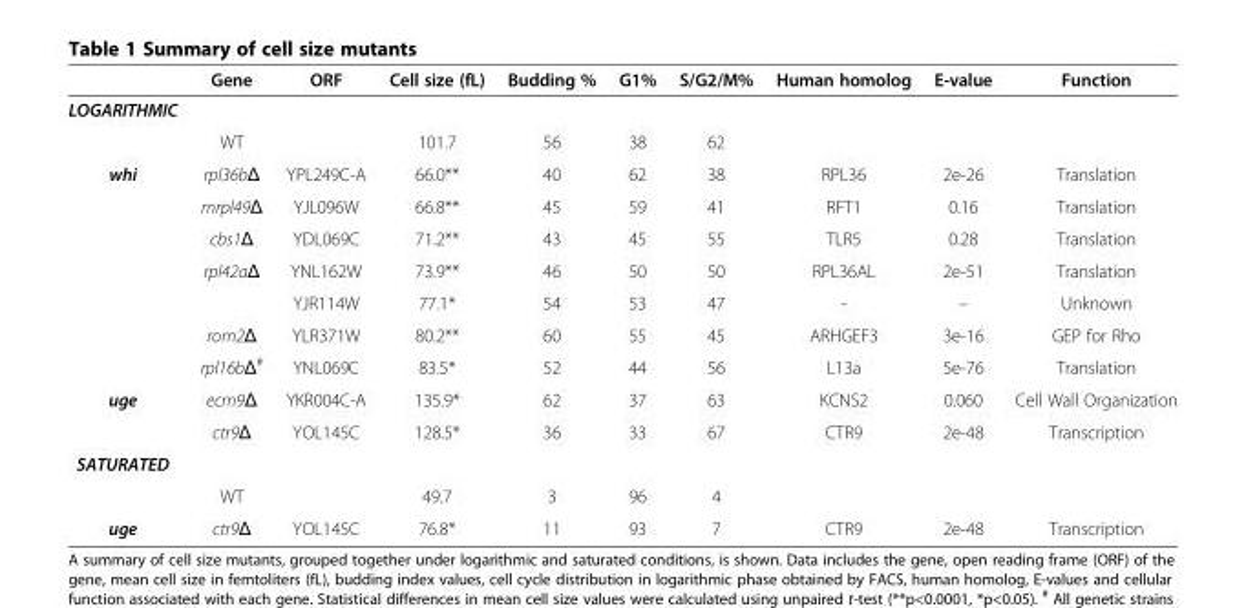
<table><thead><tr><td></td><td>Gene</td><td>ORF</td><td>Cell size (fL)</td><td>Budding %</td><td>G1%</td><td>S/G2/M%</td><td>Human homolog</td><td>E-value</td><td>Function</td></tr></thead><tbody><tr><td colspan="10">LOGARITHMIC</td></tr><tr><td></td><td>WT</td><td></td><td>101.7</td><td>56</td><td>38</td><td>62</td><td></td><td></td><td></td></tr><tr><td rowspan="7">whi</td><td>rpl36bΔ</td><td>YPL249C-A</td><td>66.0**</td><td>40</td><td>62</td><td>38</td><td>RPL36</td><td>2e-26</td><td>Translation</td></tr><tr><td>mrpl49Δ</td><td>YJL096W</td><td>66.8**</td><td>45</td><td>59</td><td>41</td><td>RFT1</td><td>0.16</td><td>Translation</td></tr><tr><td>cbs1Δ</td><td>YDL069C</td><td>71.2**</td><td>43</td><td>45</td><td>55</td><td>TLR5</td><td>0.28</td><td>Translation</td></tr><tr><td>rpl42aΔ</td><td>YNL162W</td><td>73.9**</td><td>46</td><td>50</td><td>50</td><td>RPL36AL</td><td>2e-51</td><td>Translation</td></tr><tr><td></td><td>YJR114W</td><td>77.1*</td><td>54</td><td>53</td><td>47</td><td>-</td><td>–</td><td>Unknown</td></tr><tr><td>rom2Δ</td><td>YLR371W</td><td>80.2**</td><td>60</td><td>55</td><td>45</td><td>ARHGEF3</td><td>3e-16</td><td>GEP for Rho</td></tr><tr><td>rpl16bΔ<sup>#</sup></td><td>YNL069C</td><td>83.5*</td><td>52</td><td>44</td><td>56</td><td>L13a</td><td>5e-76</td><td>Translation</td></tr><tr><td rowspan="2">uge</td><td>ecm9Δ</td><td>YKR004C-A</td><td>135.9*</td><td>62</td><td>37</td><td>63</td><td>KCNS2</td><td>0.060</td><td>Cell Wall Organization</td></tr><tr><td>ctr9Δ</td><td>YOL145C</td><td>128.5*</td><td>36</td><td>33</td><td>67</td><td>CTR9</td><td>2e-48</td><td>Transcription</td></tr><tr><td colspan="10">SATURATED</td></tr><tr><td></td><td>WT</td><td></td><td>49.7</td><td>3</td><td>96</td><td>4</td><td></td><td></td><td></td></tr><tr><td>uge</td><td>ctr9Δ</td><td>YOL145C</td><td>76.8*</td><td>11</td><td>93</td><td>7</td><td>CTR9</td><td>2e-48</td><td>Transcription</td></tr></tbody></table>